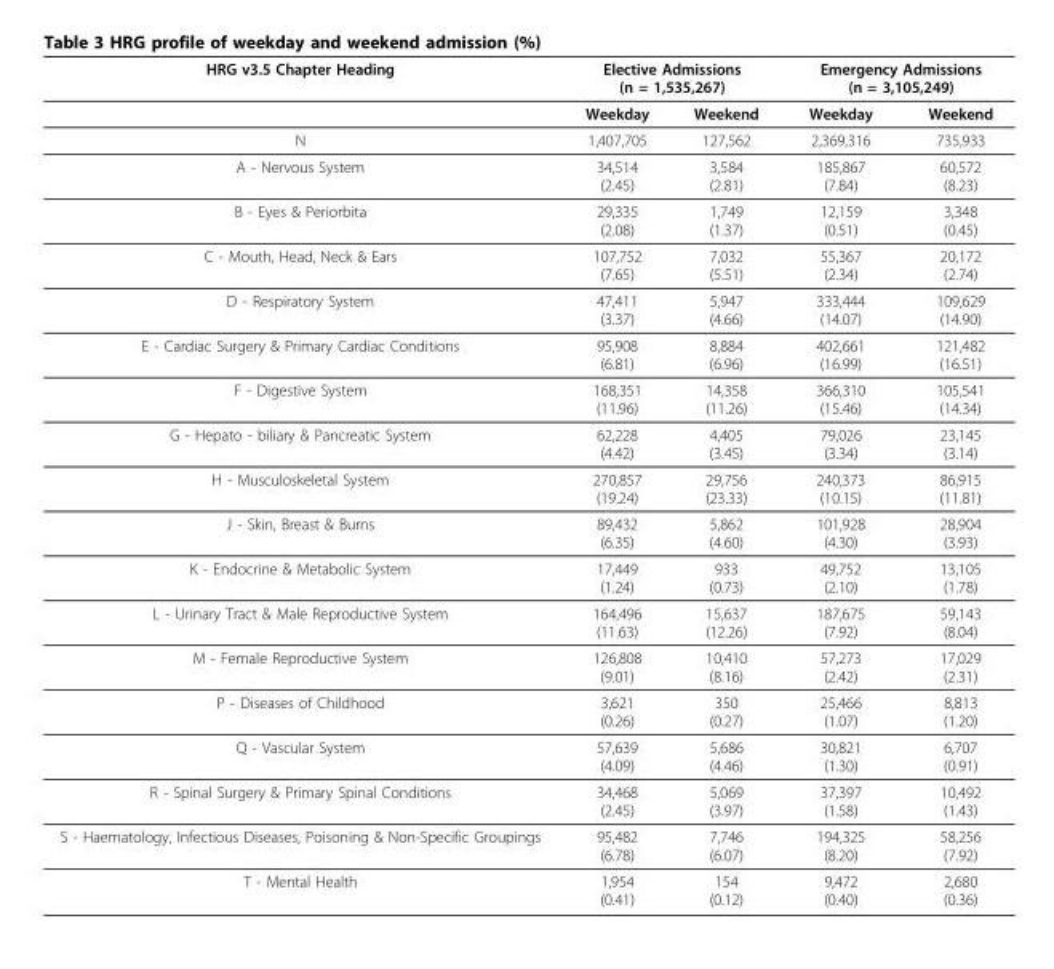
<table><thead><tr><td rowspan="2">HRG v3.5 Chapter Heading</td><td colspan="2">Elective Admissions (n = 1,535,267)</td><td colspan="2">Emergency Admissions (n = 3,105,249)</td></tr><tr><td>Weekday</td><td>Weekend</td><td>Weekday</td><td>Weekend</td></tr></thead><tbody><tr><td>N</td><td>1,407,705</td><td>127,562</td><td>2,369,316</td><td>735,933</td></tr><tr><td>A - Nervous System</td><td>34,514 (2.45)</td><td>3,584 (2.81)</td><td>185,867 (7.84)</td><td>60,572 (8.23)</td></tr><tr><td>B - Eyes &amp; Periorbita</td><td>29,335 (2.08)</td><td>1,749 (1.37)</td><td>12,159 (0.51)</td><td>3,348 (0.45)</td></tr><tr><td>C - Mouth, Head, Neck &amp; Ears</td><td>107,752 (7.65)</td><td>7,032 (5.51)</td><td>55,367 (2.34)</td><td>20,172 (2.74)</td></tr><tr><td>D - Respiratory System</td><td>47,411 (3.37)</td><td>5,947 (4.66)</td><td>333,444 (14.07)</td><td>109,629 (14.90)</td></tr><tr><td>E - Cardiac Surgery &amp; Primary Cardiac Conditions</td><td>95,908 (6.81)</td><td>8,884 (6.96)</td><td>402,661 (16.99)</td><td>121,482 (16.51)</td></tr><tr><td>F - Digestive System</td><td>168,351 (11.96)</td><td>14,358 (11.26)</td><td>366,310 (15.46)</td><td>105,541 (14.34)</td></tr><tr><td>G - Hepato - biliary &amp; Pancreatic System</td><td>62,228 (4.42)</td><td>4,405 (3.45)</td><td>79,026 (3.34)</td><td>23,145 (3.14)</td></tr><tr><td>H - Musculoskeletal System</td><td>270,857 (19.24)</td><td>29,756 (23.33)</td><td>240,373 (10.15)</td><td>86,915 (11.81)</td></tr><tr><td>J - Skin, Breast &amp; Burns</td><td>89,432 (6.35)</td><td>5,862 (4.60)</td><td>101,928 (4.30)</td><td>28,904 (3.93)</td></tr><tr><td>K - Endocrine &amp; Metabolic System</td><td>17,449 (1.24)</td><td>933 (0.73)</td><td>49,752 (2.10)</td><td>13,105 (1.78)</td></tr><tr><td>L - Urinary Tract &amp; Male Reproductive System</td><td>164,496 (11.63)</td><td>15,637 (12.26)</td><td>187,675 (7.92)</td><td>59,143 (8.04)</td></tr><tr><td>M - Female Reproductive System</td><td>126,808 (9.01)</td><td>10,410 (8.16)</td><td>57,273 (2.42)</td><td>17,029 (2.31)</td></tr><tr><td>P - Diseases of Childhood</td><td>3,621 (0.26)</td><td>350 (0.27)</td><td>25,466 (1.07)</td><td>8,813 (1.20)</td></tr><tr><td>Q - Vascular System</td><td>57,639 (4.09)</td><td>5,686 (4.46)</td><td>30,821 (1.30)</td><td>6,707 (0.91)</td></tr><tr><td>R - Spinal Surgery &amp; Primary Spinal Conditions</td><td>34,468 (2.45)</td><td>5,069 (3.97)</td><td>37,397 (1.58)</td><td>10,492 (1.43)</td></tr><tr><td>S - Haematology, Infectious Diseases, Poisoning &amp; Non-Specific Groupings</td><td>95,482 (6.78)</td><td>7,746 (6.07)</td><td>194,325 (8.20)</td><td>58,256 (7.92)</td></tr><tr><td>T - Mental Health</td><td>1,954 (0.41)</td><td>154 (0.12)</td><td>9,472 (0.40)</td><td>2,680 (0.36)</td></tr></tbody></table>